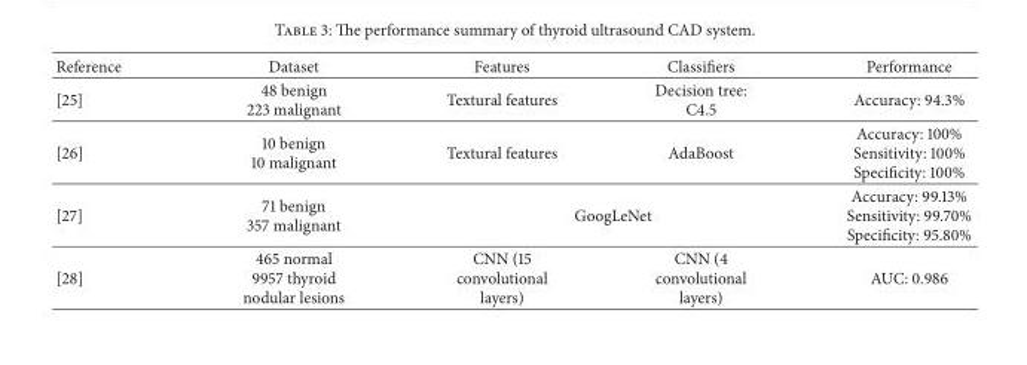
<table><thead><tr><td>Reference</td><td>Dataset</td><td>Features</td><td>Classifiers</td><td>Performance</td></tr></thead><tbody><tr><td>[25]</td><td>48 benign 223 malignant</td><td>Textural features</td><td>Decision tree: C4.5</td><td>Accuracy: 94.3%</td></tr><tr><td>[26]</td><td>10 benign 10 malignant</td><td>Textural features</td><td>AdaBoost</td><td>Accuracy: 100% Sensitivity: 100% Specificity: 100%</td></tr><tr><td>[27]</td><td>71 benign 357 malignant</td><td colspan="2">GoogLeNet</td><td>Accuracy: 99.13% Sensitivity: 99.70% Specificity: 95.80%</td></tr><tr><td>[28]</td><td>465 normal 9957 thyroid nodular lesions</td><td>CNN (15 convolutional layers)</td><td>CNN (4 convolutional layers)</td><td>AUC: 0.986</td></tr></tbody></table>